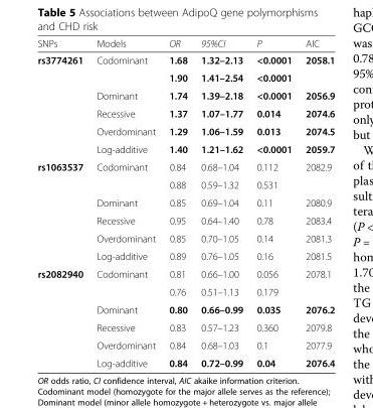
<table><thead><tr><td>SNPs</td><td>Models</td><td>OR</td><td>95%CI</td><td>P</td><td>AIC</td></tr></thead><tbody><tr><td rowspan="6">rs3774261</td><td>Codominant</td><td>1.68</td><td>1.32–2.13</td><td>&lt;0.0001</td><td>2058.1</td></tr><tr><td></td><td>1.90</td><td>1.41–2.54</td><td>&lt;0.0001</td><td></td></tr><tr><td>Dominant</td><td>1.74</td><td>1.39–2.18</td><td>&lt;0.0001</td><td>2056.9</td></tr><tr><td>Recessive</td><td>1.37</td><td>1.07–1.77</td><td>0.014</td><td>2074.6</td></tr><tr><td>Overdominant</td><td>1.29</td><td>1.06–1.59</td><td>0.013</td><td>2074.5</td></tr><tr><td>Log-additive</td><td>1.40</td><td>1.21–1.62</td><td>&lt;0.0001</td><td>2059.7</td></tr><tr><td rowspan="6">rs1063537</td><td>Codominant</td><td>0.84</td><td>0.68–1.04</td><td>0.112</td><td>2082.9</td></tr><tr><td></td><td>0.88</td><td>0.59–1.32</td><td>0.531</td><td></td></tr><tr><td>Dominant</td><td>0.85</td><td>0.69–1.04</td><td>0.11</td><td>2080.9</td></tr><tr><td>Recessive</td><td>0.95</td><td>0.64–1.40</td><td>0.78</td><td>2083.4</td></tr><tr><td>Overdominant</td><td>0.85</td><td>0.70–1.05</td><td>0.14</td><td>2081.3</td></tr><tr><td>Log-additive</td><td>0.89</td><td>0.76–1.05</td><td>0.16</td><td>2081.5</td></tr><tr><td rowspan="6">rs2082940</td><td>Codominant</td><td>0.81</td><td>0.66–1.00</td><td>0.056</td><td>2078.1</td></tr><tr><td></td><td>0.76</td><td>0.51–1.13</td><td>0.179</td><td></td></tr><tr><td>Dominant</td><td>0.80</td><td>0.66–0.99</td><td>0.035</td><td>2076.2</td></tr><tr><td>Recessive</td><td>0.83</td><td>0.57–1.23</td><td>0.360</td><td>2079.8</td></tr><tr><td>Overdominant</td><td>0.84</td><td>0.68–1.03</td><td>0.1</td><td>2077.9</td></tr><tr><td>Log-additive</td><td>0.84</td><td>0.72–0.99</td><td>0.04</td><td>2076.4</td></tr></tbody></table>